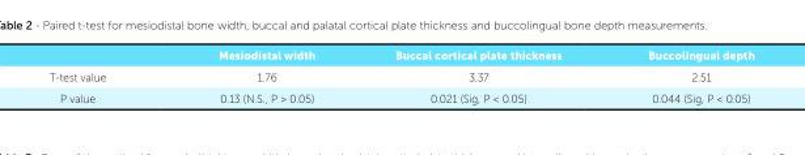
<table><thead><tr><td></td><td>Mesiodistal width</td><td>Buccal cortical plate thickness</td><td>Buccolingual depth</td></tr></thead><tbody><tr><td>T-test value</td><td>1.76</td><td>3.37</td><td>2.51</td></tr><tr><td>P value</td><td>0.13 (N.S., P &gt; 0.05)</td><td>0.021 (Sig, P &lt; 0.05)</td><td>0.044 (Sig, P &lt; 0.05)</td></tr></tbody></table>